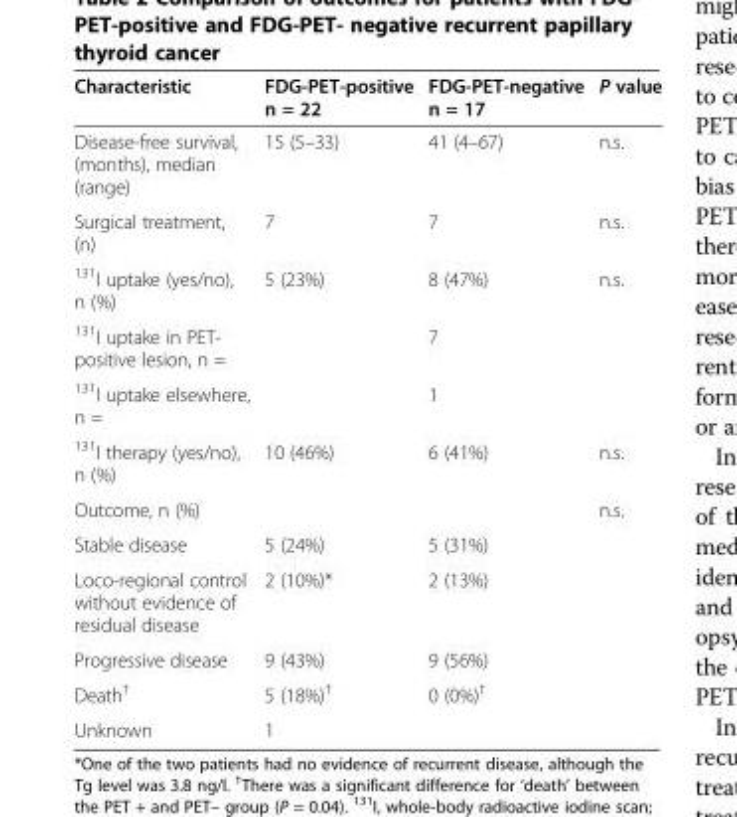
<table><thead><tr><td>Characteristic</td><td>FDG-PET-positive n = 22</td><td>FDG-PET-negative n = 17</td><td>P value</td></tr></thead><tbody><tr><td>Disease-free survival, (months), median (range)</td><td>15 (5–33)</td><td>41 (4–67)</td><td>n.s.</td></tr><tr><td>Surgical treatment, (n)</td><td>7</td><td>7</td><td>n.s.</td></tr><tr><td><sup>131</sup>I uptake (yes/no), n (%)</td><td>5 (23%)</td><td>8 (47%)</td><td>n.s.</td></tr><tr><td><sup>131</sup>I uptake in PET- positive lesion, n =</td><td></td><td>7</td><td></td></tr><tr><td><sup>131</sup>I uptake elsewhere, n =</td><td></td><td>1</td><td></td></tr><tr><td><sup>131</sup>I therapy (yes/no), n (%)</td><td>10 (46%)</td><td>6 (41%)</td><td>n.s.</td></tr><tr><td>Outcome, n (%)</td><td></td><td></td><td>n.s.</td></tr><tr><td>Stable disease</td><td>5 (24%)</td><td>5 (31%)</td><td></td></tr><tr><td>Loco-regional control without evidence of residual disease</td><td>2 (10%)*</td><td>2 (13%)</td><td></td></tr><tr><td>Progressive disease</td><td>9 (43%)</td><td>9 (56%)</td><td></td></tr><tr><td>Death<sup>†</sup></td><td>5 (18%)<sup>†</sup></td><td>0 (0%)<sup>†</sup></td><td></td></tr><tr><td>Unknown</td><td>1</td><td></td><td></td></tr></tbody></table>